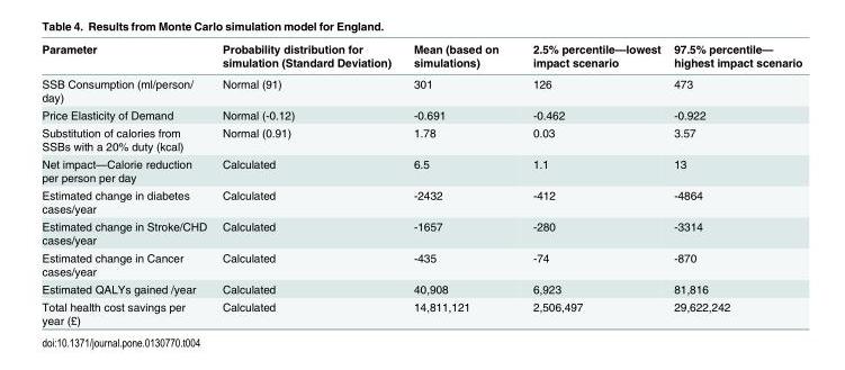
<table><thead><tr><td>Parameter</td><td>Probability distribution for simulation (Standard Deviation)</td><td>Mean (based on simulations)</td><td>2.5% percentile—lowest impact scenario</td><td>97.5% percentile— highest impact scenario</td></tr></thead><tbody><tr><td>SSB Consumption (ml/person/ day)</td><td>Normal (91)</td><td>301</td><td>126</td><td>473</td></tr><tr><td>Price Elasticity of Demand</td><td>Normal (-0.12)</td><td>-0.691</td><td>-0.462</td><td>-0.922</td></tr><tr><td>Substitution of calories from SSBs with a 20% duty (kcal)</td><td>Normal (0.91)</td><td>1.78</td><td>0.03</td><td>3.57</td></tr><tr><td>Net impact—Calorie reduction per person per day</td><td>Calculated</td><td>6.5</td><td>1.1</td><td>13</td></tr><tr><td>Estimated change in diabetes cases/year</td><td>Calculated</td><td>-2432</td><td>-412</td><td>-4864</td></tr><tr><td>Estimated change in Stroke/CHD cases/year</td><td>Calculated</td><td>-1657</td><td>-280</td><td>-3314</td></tr><tr><td>Estimated change in Cancer cases/year</td><td>Calculated</td><td>-435</td><td>-74</td><td>-870</td></tr><tr><td>Estimated QALYs gained /year</td><td>Calculated</td><td>40,908</td><td>6,923</td><td>81,816</td></tr><tr><td>Total health cost savings per year (£)</td><td>Calculated</td><td>14,811,121</td><td>2,506,497</td><td>29,622,242</td></tr></tbody></table>